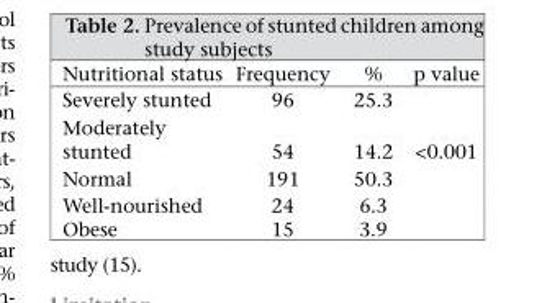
<table><thead><tr><td>Nutritional status</td><td>Frequency</td><td>%</td><td>p value</td></tr></thead><tbody><tr><td>Severely stunted</td><td>96</td><td>25.3</td><td></td></tr><tr><td>Moderately stunted</td><td>54</td><td>14.2</td><td>&lt;0.001</td></tr><tr><td>Normal</td><td>191</td><td>50.3</td><td></td></tr><tr><td>Well-nourished</td><td>24</td><td>6.3</td><td></td></tr><tr><td>Obese</td><td>15</td><td>3.9</td><td></td></tr></tbody></table>